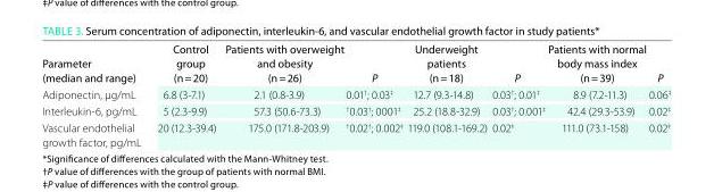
<table><thead><tr><td>Parameter (median and range)</td><td>Control group (n = 20)</td><td>Patients with overweight and obesity (n = 26)</td><td>P</td><td>underweight patients (n = 18)</td><td>P</td><td>Patients with normal body mass index (n = 39)</td><td>P</td></tr></thead><tbody><tr><td>Adiponectin, μg/mL</td><td>6.8 (3-7.1)</td><td>2.1 (0.8-3.9)</td><td>0.01<sup>†</sup>; 0.03<sup>‡</sup></td><td>12.7 (9.3-14.8)</td><td>0.03<sup>†</sup>; 0.01<sup>‡</sup></td><td>8.9 (7.2-11.3)</td><td>0.06<sup>‡</sup></td></tr><tr><td>Interleukin-6, pg/mL</td><td>5 (2.3-9.9)</td><td>57.3 (50.6-73.3)</td><td>†0.03<sup>†</sup>; 0001<sup>‡</sup></td><td>25.2 (18.8-32.9)</td><td>0.03<sup>†</sup>; 0.001<sup>‡</sup></td><td>42.4 (29.3-53.9)</td><td>0.02<sup>‡</sup></td></tr><tr><td>Vascular endothelial growth factor, pg/mL</td><td>20 (12.3-39.4)</td><td>175.0 (171.8-203.9)</td><td>†0.02<sup>†</sup>; 0.002<sup>‡</sup></td><td>119.0 (108.1-169.2)</td><td>0.02<sup>‡</sup></td><td>111.0 (73.1-158)</td><td>0.02<sup>‡</sup></td></tr></tbody></table>